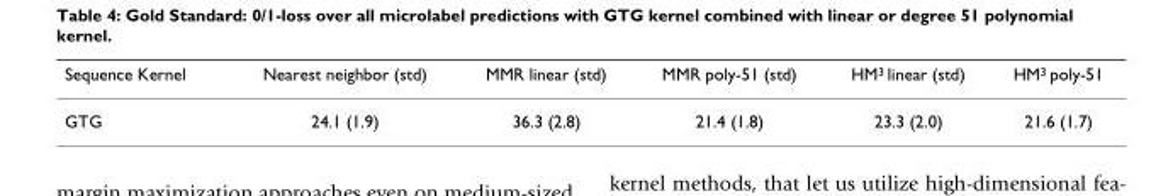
<table><thead><tr><td>Sequence Kernel</td><td>Nearest neighbor (std)</td><td>MMR linear (std)</td><td>MMR poly-51 (std)</td><td>HM<sup>3</sup> linear (std)</td><td>HM<sup>3</sup> poly-51</td></tr></thead><tbody><tr><td>GTG</td><td>24.1 (1.9)</td><td>36.3 (2.8)</td><td>21.4 (1.8)</td><td>23.3 (2.0)</td><td>21.6 (1.7)</td></tr></tbody></table>